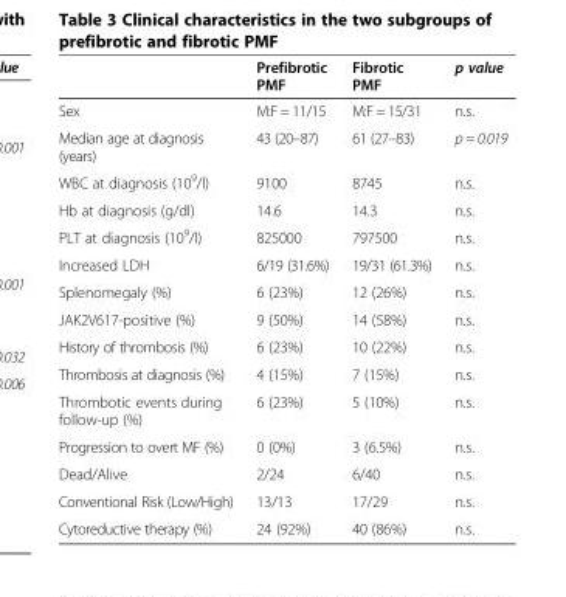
<table><thead><tr><td></td><td>Prefibrotic PMF</td><td>Fibrotic PMF</td><td>p value</td></tr></thead><tbody><tr><td>Sex</td><td>M:F = 11/15</td><td>M:F = 15/31</td><td>n.s.</td></tr><tr><td>Median age at diagnosis (years)</td><td>43 (20–87)</td><td>61 (27–83)</td><td>p = 0.019</td></tr><tr><td>WBC at diagnosis (10<sup>9</sup>/l)</td><td>9100</td><td>8745</td><td>n.s.</td></tr><tr><td>Hb at diagnosis (g/dl)</td><td>14.6</td><td>14.3</td><td>n.s.</td></tr><tr><td>PLT at diagnosis (10<sup>9</sup>/l)</td><td>825000</td><td>797500</td><td>n.s.</td></tr><tr><td>Increased LDH</td><td>6/19 (31.6%)</td><td>19/31 (61.3%)</td><td>n.s.</td></tr><tr><td>Splenomegaly (%)</td><td>6 (23%)</td><td>12 (26%)</td><td>n.s.</td></tr><tr><td>JAK2V617-positive (%)</td><td>9 (50%)</td><td>14 (58%)</td><td>n.s.</td></tr><tr><td>History of thrombosis (%)</td><td>6 (23%)</td><td>10 (22%)</td><td>n.s.</td></tr><tr><td>Thrombosis at diagnosis (%)</td><td>4 (15%)</td><td>7 (15%)</td><td>n.s.</td></tr><tr><td>Thrombotic events during follow-up (%)</td><td>6 (23%)</td><td>5 (10%)</td><td>n.s.</td></tr><tr><td>Progression to overt MF (%)</td><td>0 (0%)</td><td>3 (6.5%)</td><td>n.s.</td></tr><tr><td>Dead/Alive</td><td>2/24</td><td>6/40</td><td>n.s.</td></tr><tr><td>Conventional Risk (Low/High)</td><td>13/13</td><td>17/29</td><td>n.s.</td></tr><tr><td>Cytoreductive therapy (%)</td><td>24 (92%)</td><td>40 (86%)</td><td>n.s.</td></tr></tbody></table>